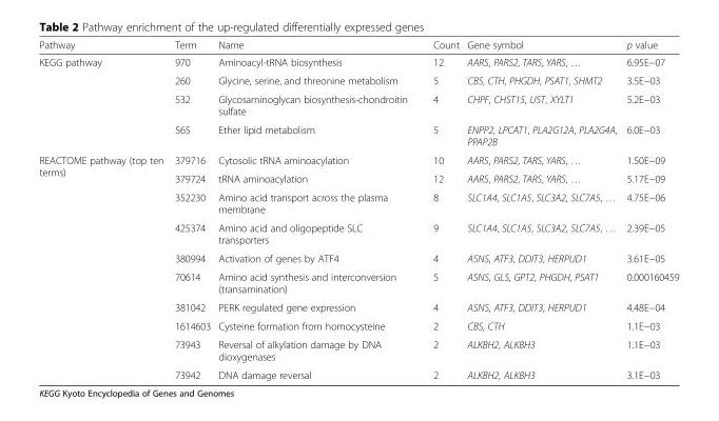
<table><thead><tr><td>Pathway</td><td>Term</td><td>Name</td><td>Count</td><td>Gene symbol</td><td>p value</td></tr></thead><tbody><tr><td rowspan="4">KEGG pathway</td><td>970</td><td>Aminoacyl-tRNA biosynthesis</td><td>12</td><td>AARS, PARS2, TARS, YARS, …</td><td>6.95E−07</td></tr><tr><td>260</td><td>Glycine, serine, and threonine metabolism</td><td>5</td><td>CBS, CTH, PHGDH, PSAT1, SHMT2</td><td>3.5E−03</td></tr><tr><td>532</td><td>Glycosaminoglycan biosynthesis-chondroitin sulfate</td><td>4</td><td>CHPF, CHST15, UST, XYLT1</td><td>5.2E−03</td></tr><tr><td>565</td><td>Ether lipid metabolism</td><td>5</td><td>ENPP2, LPCAT1, PLA2G12A, PLA2G4A, PPAP2B</td><td>6.0E−03</td></tr><tr><td rowspan="10">REACTOME pathway (top ten terms)</td><td>379716</td><td>Cytosolic tRNA aminoacylation</td><td>10</td><td>AARS, PARS2, TARS, YARS, …</td><td>1.50E−09</td></tr><tr><td>379724</td><td>tRNA aminoacylation</td><td>12</td><td>AARS, PARS2, TARS, YARS, …</td><td>5.17E−09</td></tr><tr><td>352230</td><td>Amino acid transport across the plasma membrane</td><td>8</td><td>SLC1A4, SLC1A5, SLC3A2, SLC7A5, …</td><td>4.75E−06</td></tr><tr><td>425374</td><td>Amino acid and oligopeptide SLC transporters</td><td>9</td><td>SLC1A4, SLC1A5, SLC3A2, SLC7A5, …</td><td>2.39E−05</td></tr><tr><td>380994</td><td>Activation of genes by ATF4</td><td>4</td><td>ASNS, ATF3, DDIT3, HERPUD1</td><td>3.61E−05</td></tr><tr><td>70614</td><td>Amino acid synthesis and interconversion (transamination)</td><td>5</td><td>ASNS, GLS, GPT2, PHGDH, PSAT1</td><td>0.000160459</td></tr><tr><td>381042</td><td>PERK regulated gene expression</td><td>4</td><td>ASNS, ATF3, DDIT3, HERPUD1</td><td>4.48E−04</td></tr><tr><td>1614603</td><td>Cysteine formation from homocysteine</td><td>2</td><td>CBS, CTH</td><td>1.1E−03</td></tr><tr><td>73943</td><td>Reversal of alkylation damage by DNA dioxygenases</td><td>2</td><td>ALKBH2, ALKBH3</td><td>1.1E−03</td></tr><tr><td>73942</td><td>DNA damage reversal</td><td>2</td><td>ALKBH2, ALKBH3</td><td>3.1E−03</td></tr></tbody></table>